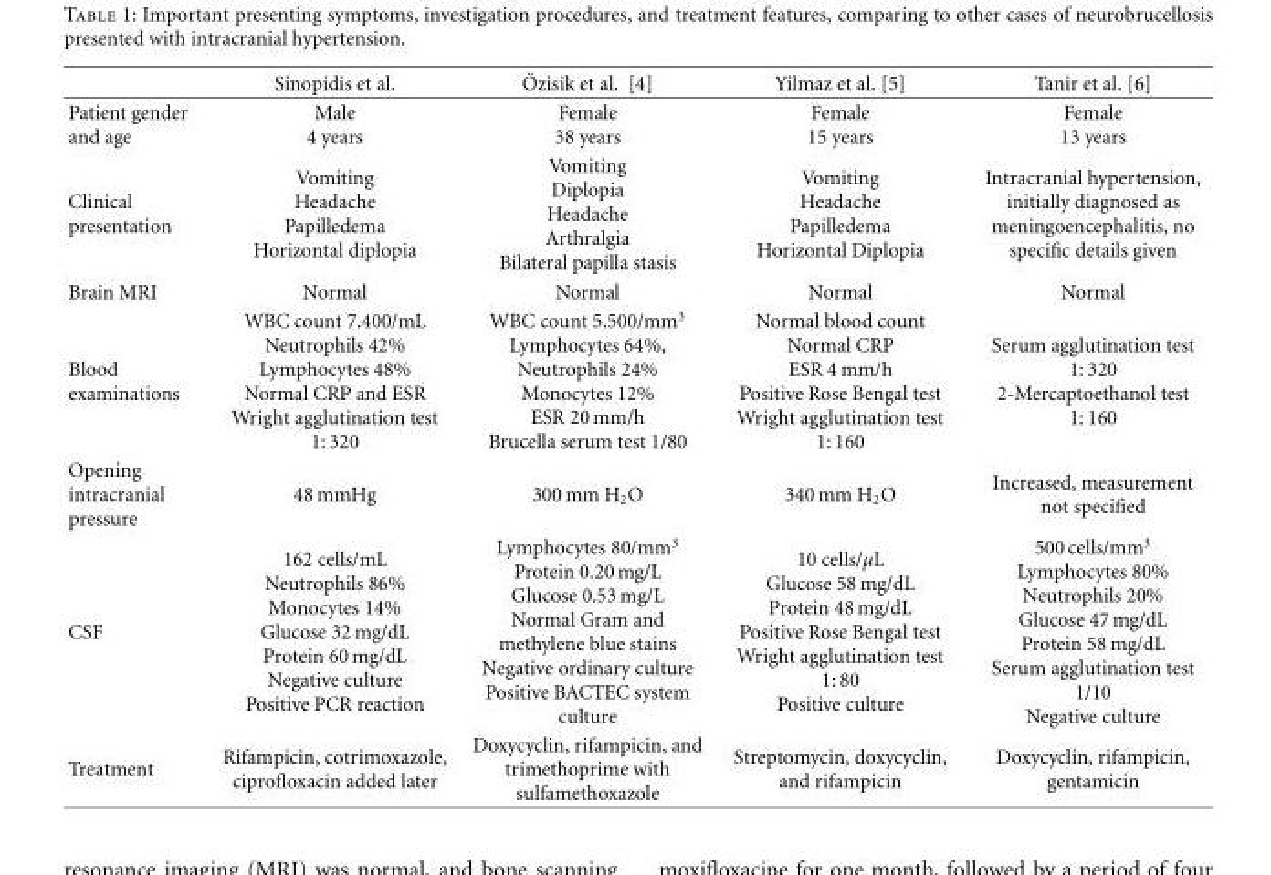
<table><thead><tr><td></td><td>Sinopidis et al.</td><td>¨Ozisik et al. [4]</td><td>Yilmaz et al. [5]</td><td>Tanir et al. [6]</td></tr></thead><tbody><tr><td>Patient gender and age</td><td>Male 4 years</td><td>Female 38 years</td><td>Female 15 years</td><td>Female 13 years</td></tr><tr><td>Clinical presentation</td><td>Vomiting Headache Papilledema Horizontal diplopia</td><td>Vomiting Diplopia Headache Arthralgia Bilateral papilla stasis</td><td>Vomiting Headache Papilledema Horizontal Diplopia</td><td>Intracranial hypertension, initially diagnosed as meningoencephalitis, no specific details given</td></tr><tr><td>Brain MRI</td><td>Normal</td><td>Normal</td><td>Normal</td><td>Normal</td></tr><tr><td>Blood examinations</td><td>WBC count 7.400/mL Neutrophils 42% Lymphocytes 48% Normal CRP and ESR Wright agglutination test 1: 320</td><td>WBC count 5.500/mm<sup>3</sup> Lymphocytes 64%, Neutrophils 24% Monocytes 12% ESR 20 mm/h Brucella serum test 1/80</td><td>Normal blood count Normal CRP ESR 4 mm/h Positive Rose Bengal test Wright agglutination test 1: 160</td><td>Serum agglutination test 1: 320 2-Mercaptoethanol test 1: 160</td></tr><tr><td>Opening intracranial pressure</td><td>48 mmHg</td><td>300 mm H<sub>2</sub>O</td><td>340 mm H<sub>2</sub>O</td><td>Increased, measurement not specified</td></tr><tr><td>CSF</td><td>162 cells/mL Neutrophils 86% Monocytes 14% Glucose 32 mg/dL Protein 60 mg/dL Negative culture Positive PCR reaction</td><td>Lymphocytes 80/mm<sup>3</sup> Protein 0.20 mg/L Glucose 0.53 mg/L Normal Gram and methylene blue stains Negative ordinary culture Positive BACTEC system culture</td><td>10 cells/µL Glucose 58 mg/dL Protein 48 mg/dL Positive Rose Bengal test Wright agglutination test 1: 80 Positive culture</td><td>500 cells/mm<sup>3</sup> Lymphocytes 80% Neutrophils 20% Glucose 47 mg/dL Protein 58 mg/dL Serum agglutination test 1/10 Negative culture</td></tr><tr><td>Treatment</td><td>Rifampicin, cotrimoxazole, ciprofloxacin added later</td><td>Doxycyclin, rifampicin, and trimethoprime with sulfamethoxazole</td><td>Streptomycin, doxycyclin, and rifampicin</td><td>Doxycyclin, rifampicin, gentamicin</td></tr></tbody></table>